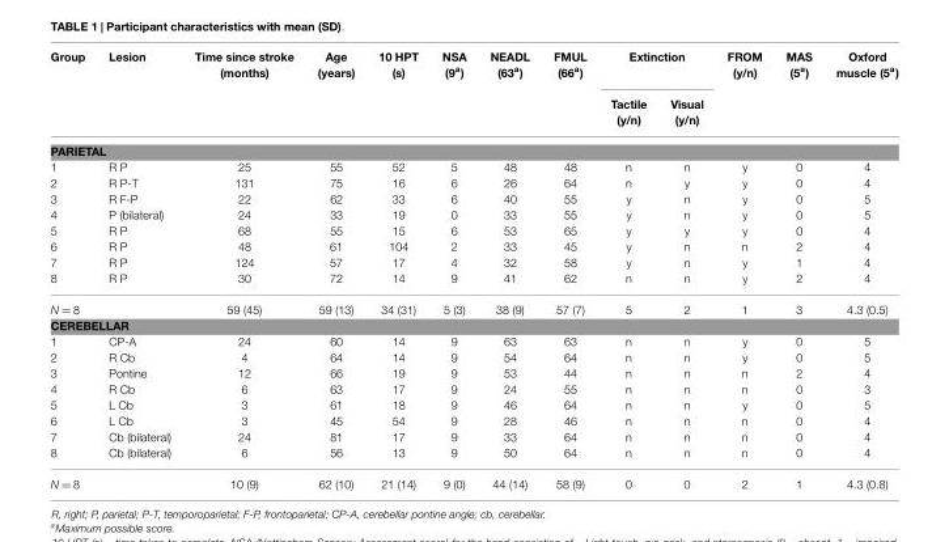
<table><thead><tr><td rowspan="2">Group</td><td rowspan="2">Lesion</td><td rowspan="2">Time since stroke (months)</td><td rowspan="2">Age (years)</td><td rowspan="2">10 HPT (s)</td><td rowspan="2">NSA (9<sup>a</sup>)</td><td rowspan="2">NEADL (63<sup>a</sup>)</td><td rowspan="2">FMUL (66<sup>a</sup>)</td><td colspan="2">Extinction</td><td rowspan="2">FROM (y/n)</td><td rowspan="2">MAS (5<sup>a</sup>)</td><td rowspan="2">Oxford muscle (5<sup>a</sup>)</td></tr><tr><td>Tactile (y/n)</td><td>Visual (y/n)</td></tr></thead><tbody><tr><td colspan="13">PARIETAL</td></tr><tr><td>1</td><td>R P</td><td>25</td><td>55</td><td>52</td><td>5</td><td>48</td><td>48</td><td>n</td><td>n</td><td>y</td><td>0</td><td>4</td></tr><tr><td>2</td><td>R P-T</td><td>131</td><td>75</td><td>16</td><td>6</td><td>26</td><td>64</td><td>n</td><td>y</td><td>y</td><td>0</td><td>4</td></tr><tr><td>3</td><td>R F-P</td><td>22</td><td>62</td><td>33</td><td>6</td><td>40</td><td>55</td><td>y</td><td>n</td><td>y</td><td>0</td><td>5</td></tr><tr><td>4</td><td>P (bilateral)</td><td>24</td><td>33</td><td>19</td><td>0</td><td>33</td><td>55</td><td>y</td><td>n</td><td>y</td><td>0</td><td>5</td></tr><tr><td>5</td><td>R P</td><td>68</td><td>55</td><td>15</td><td>6</td><td>53</td><td>65</td><td>y</td><td>y</td><td>y</td><td>0</td><td>4</td></tr><tr><td>6</td><td>R P</td><td>48</td><td>61</td><td>104</td><td>2</td><td>33</td><td>45</td><td>y</td><td>n</td><td>n</td><td>2</td><td>4</td></tr><tr><td>7</td><td>R P</td><td>124</td><td>57</td><td>17</td><td>4</td><td>32</td><td>58</td><td>y</td><td>n</td><td>y</td><td>1</td><td>4</td></tr><tr><td>8</td><td>R P</td><td>30</td><td>72</td><td>14</td><td>9</td><td>41</td><td>62</td><td>n</td><td>n</td><td>y</td><td>2</td><td>4</td></tr><tr><td>N = 8</td><td></td><td>59 (45)</td><td>59 (13)</td><td>34 (31)</td><td>5 (3)</td><td>38 (9)</td><td>57 (7)</td><td>5</td><td>2</td><td>1</td><td>3</td><td>4.3 (0.5)</td></tr><tr><td colspan="13">CEREBELLAR</td></tr><tr><td>1</td><td>CP-A</td><td>24</td><td>60</td><td>14</td><td>9</td><td>63</td><td>63</td><td>n</td><td>n</td><td>y</td><td>0</td><td>5</td></tr><tr><td>2</td><td>R Cb</td><td>4</td><td>64</td><td>14</td><td>9</td><td>54</td><td>64</td><td>n</td><td>n</td><td>y</td><td>0</td><td>5</td></tr><tr><td>3</td><td>Pontine</td><td>12</td><td>66</td><td>19</td><td>9</td><td>53</td><td>44</td><td>n</td><td>n</td><td>n</td><td>2</td><td>4</td></tr><tr><td>4</td><td>R Cb</td><td>6</td><td>63</td><td>17</td><td>9</td><td>24</td><td>55</td><td>n</td><td>n</td><td>n</td><td>0</td><td>3</td></tr><tr><td>5</td><td>L Cb</td><td>3</td><td>61</td><td>18</td><td>9</td><td>46</td><td>64</td><td>n</td><td>n</td><td>y</td><td>0</td><td>5</td></tr><tr><td>6</td><td>L Cb</td><td>3</td><td>45</td><td>54</td><td>9</td><td>28</td><td>46</td><td>n</td><td>n</td><td>n</td><td>0</td><td>4</td></tr><tr><td>7</td><td>Cb (bilateral)</td><td>24</td><td>81</td><td>17</td><td>9</td><td>33</td><td>64</td><td>n</td><td>n</td><td>n</td><td>0</td><td>4</td></tr><tr><td>8</td><td>Cb (bilateral)</td><td>6</td><td>56</td><td>13</td><td>9</td><td>50</td><td>64</td><td>n</td><td>n</td><td>n</td><td>0</td><td>4</td></tr><tr><td>N = 8</td><td></td><td>10 (9)</td><td>62 (10)</td><td>21 (14)</td><td>9 (0)</td><td>44 (14)</td><td>58 (9)</td><td>0</td><td>0</td><td>2</td><td>1</td><td>4.3 (0.8)</td></tr></tbody></table>